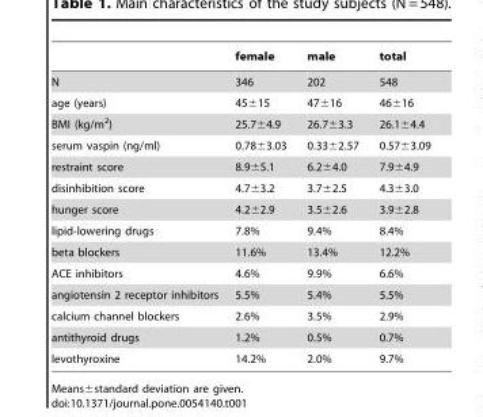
<table><thead><tr><td></td><td>female</td><td>male</td><td>total</td></tr></thead><tbody><tr><td>N</td><td>346</td><td>202</td><td>548</td></tr><tr><td>age (years)</td><td>45±15</td><td>47±16</td><td>46±16</td></tr><tr><td>BMI (kg/m<sup>2</sup>)</td><td>25.7±4.9</td><td>26.7±3.3</td><td>26.1±4.4</td></tr><tr><td>serum vaspin (ng/ml)</td><td>0.78±3.03</td><td>0.33±2.57</td><td>0.57±3.09</td></tr><tr><td>restraint score</td><td>8.9±5.1</td><td>6.2±4.0</td><td>7.9±4.9</td></tr><tr><td>disinhibition score</td><td>4.7±3.2</td><td>3.7±2.5</td><td>4.3±3.0</td></tr><tr><td>hunger score</td><td>4.2±2.9</td><td>3.5±2.6</td><td>3.9±2.8</td></tr><tr><td>lipid-lowering drugs</td><td>7.8%</td><td>9.4%</td><td>8.4%</td></tr><tr><td>beta blockers</td><td>11.6%</td><td>13.4%</td><td>12.2%</td></tr><tr><td>ACE inhibitors</td><td>4.6%</td><td>9.9%</td><td>6.6%</td></tr><tr><td>angiotensin 2 receptor inhibitors</td><td>5.5%</td><td>5.4%</td><td>5.5%</td></tr><tr><td>calcium channel blockers</td><td>2.6%</td><td>3.5%</td><td>2.9%</td></tr><tr><td>antithyroid drugs</td><td>1.2%</td><td>0.5%</td><td>0.7%</td></tr><tr><td>levothyroxine</td><td>14.2%</td><td>2.0%</td><td>9.7%</td></tr></tbody></table>